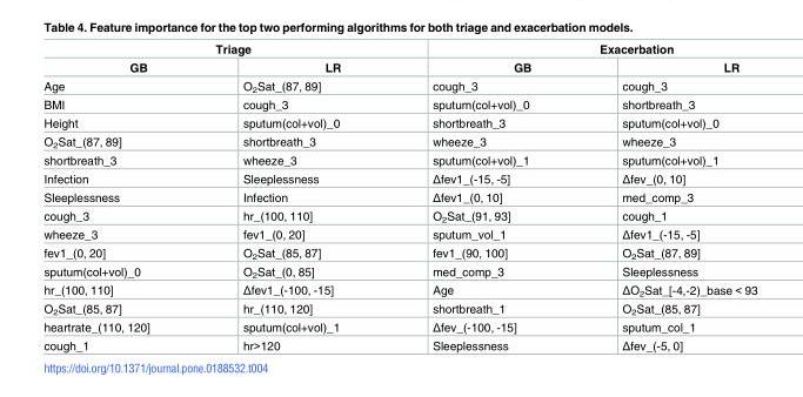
<table><thead><tr><td colspan="2">Triage</td><td colspan="2">Exacerbation</td></tr><tr><td>GB</td><td>LR</td><td>GB</td><td>LR</td></tr></thead><tbody><tr><td>Age</td><td>O<sub>2</sub>Sat_(87, 89]</td><td>cough_3</td><td>cough_3</td></tr><tr><td>BMI</td><td>cough_3</td><td>sputum(col+vol)_0</td><td>shortbreath_3</td></tr><tr><td>Height</td><td>sputum(col+vol)_0</td><td>shortbreath_3</td><td>sputum(col+vol)_0</td></tr><tr><td>O<sub>2</sub>Sat_(87, 89]</td><td>shortbreath_3</td><td>wheeze_3</td><td>wheeze_3</td></tr><tr><td>shortbreath_3</td><td>wheeze_3</td><td>sputum(col+vol)_1</td><td>sputum(col+vol)_1</td></tr><tr><td>Infection</td><td>Sleeplessness</td><td>Δfev1_(-15, -5]</td><td>Δfev_(0, 10]</td></tr><tr><td>Sleeplessness</td><td>Infection</td><td>Δfev1_(0, 10]</td><td>med_comp_3</td></tr><tr><td>cough_3</td><td>hr_(100, 110]</td><td>O<sub>2</sub>Sat_(91, 93]</td><td>cough_1</td></tr><tr><td>wheeze_3</td><td>fev1_(0, 20]</td><td>sputum_vol_1</td><td>Δfev1_(-15, -5]</td></tr><tr><td>fev1_(0, 20]</td><td>O<sub>2</sub>Sat_(85, 87]</td><td>fev1_(90, 100]</td><td>O<sub>2</sub>Sat_(87, 89]</td></tr><tr><td>sputum(col+vol)_0</td><td>O<sub>2</sub>Sat_(0, 85]</td><td>med_comp_3</td><td>Sleeplessness</td></tr><tr><td>hr_(100, 110]</td><td>Δfev1_(-100, -15]</td><td>Age</td><td>ΔO<sub>2</sub>Sat_[-4,-2)_base &lt; 93</td></tr><tr><td>O<sub>2</sub>Sat_(85, 87]</td><td>hr_(110, 120]</td><td>shortbreath_1</td><td>O<sub>2</sub>Sat_(85, 87]</td></tr><tr><td>heartrate_(110, 120]</td><td>sputum(col+vol)_1</td><td>Δfev_(-100, -15]</td><td>sputum_col_1</td></tr><tr><td>cough_1</td><td>hr&gt;120</td><td>Sleeplessness</td><td>Δfev_(-5, 0]</td></tr></tbody></table>